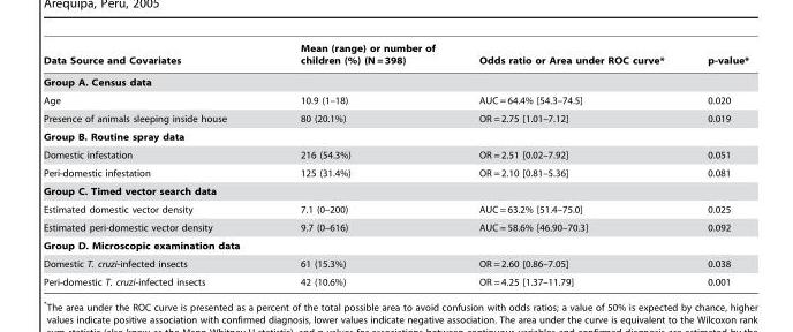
<table><thead><tr><td>Data Source and Covariates</td><td>Mean (range) or number of children (%) (N = 398)</td><td>Odds ratio or Area under ROC curve*</td><td>p-value*</td></tr></thead><tbody><tr><td colspan="4">Group A. Census data</td></tr><tr><td>Age</td><td>10.9 (1–18)</td><td>AUC = 64.4% [54.3–74.5]</td><td>0.020</td></tr><tr><td>Presence of animals sleeping inside house</td><td>80 (20.1%)</td><td>OR = 2.75 [1.01–7.12]</td><td>0.019</td></tr><tr><td colspan="4">Group B. Routine spray data</td></tr><tr><td>Domestic infestation</td><td>216 (54.3%)</td><td>OR = 2.51 [0.02–7.92]</td><td>0.051</td></tr><tr><td>Peri-domestic infestation</td><td>125 (31.4%)</td><td>OR = 2.10 [0.81–5.36]</td><td>0.081</td></tr><tr><td colspan="4">Group C. Timed vector search data</td></tr><tr><td>Estimated domestic vector density</td><td>7.1 (0–200)</td><td>AUC = 63.2% [51.4–75.0]</td><td>0.025</td></tr><tr><td>Estimated peri-domestic vector density</td><td>9.7 (0–616)</td><td>AUC = 58.6% [46.90–70.3]</td><td>0.092</td></tr><tr><td colspan="4">Group D. Microscopic examination data</td></tr><tr><td>Domestic T. cruzi-infected insects</td><td>61 (15.3%)</td><td>OR = 2.60 [0.86–7.05]</td><td>0.038</td></tr><tr><td>Peri-domestic T. cruzi-infected insects</td><td>42 (10.6%)</td><td>OR = 4.25 [1.37–11.79]</td><td>0.001</td></tr></tbody></table>